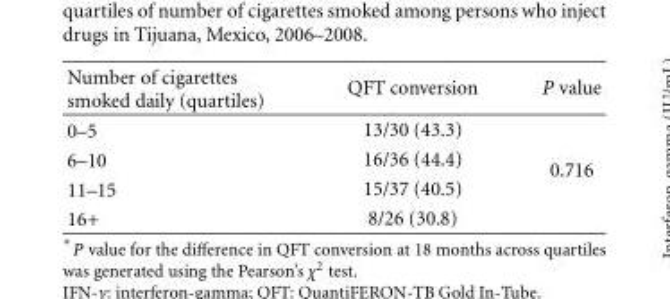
<table><thead><tr><td>Number of cigarettes smoked daily (quartiles)</td><td>QFT conversion</td><td>P value</td></tr></thead><tbody><tr><td>0–5</td><td>13/30 (43.3)</td><td rowspan="4">0.716</td></tr><tr><td>6–10</td><td>16/36 (44.4)</td></tr><tr><td>11–15</td><td>15/37 (40.5)</td></tr><tr><td>16+</td><td>8/26 (30.8)</td></tr></tbody></table>